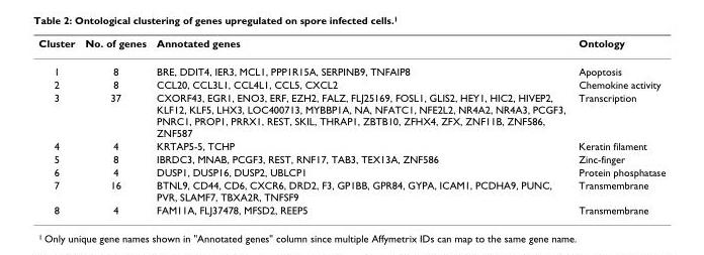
<table><thead><tr><td>Cluster</td><td>No. of genes</td><td>Annotated genes</td><td>Ontology</td></tr></thead><tbody><tr><td>1</td><td>8</td><td>BRE, DDIT4, IER3, MCL1, PPP1R15A, SERPINB9, TNFAIP8</td><td>Apoptosis</td></tr><tr><td>2</td><td>8</td><td>CCL20, CCL3L1, CCL4L1, CCL5, CXCL2</td><td>Chemokine activity</td></tr><tr><td>3</td><td>37</td><td>CXORF43, EGR1, ENO3, ERF, EZH2, FALZ, FLJ25169, FOSL1, GLIS2, HEY1, HIC2, HIVEP2, KLF12, KLF5, LHX3, LOC400713, MYBBP1A, NA, NFATC1, NFE2L2, NR4A2, NR4A3, PCGF3, PNRC1, PROP1, PRRX1, REST, SKIL, THRAP1, ZBTB10, ZFHX4, ZFX, ZNF11B, ZNF586, ZNF587</td><td>Transcription</td></tr><tr><td>4</td><td>4</td><td>KRTAP5-5, TCHP</td><td>Keratin filament</td></tr><tr><td>5</td><td>8</td><td>IBRDC3, MNAB, PCGF3, REST, RNF17, TAB3, TEX13A, ZNF586</td><td>Zinc-finger</td></tr><tr><td>6</td><td>4</td><td>DUSP1, DUSP16, DUSP2, UBLCP1</td><td>Protein phosphatase</td></tr><tr><td>7</td><td>16</td><td>BTNL9, CD44, CD6, CXCR6, DRD2, F3, GP1BB, GPR84, GYPA, ICAM1, PCDHA9, PUNC, PVR, SLAMF7, TBXA2R, TNFSF9</td><td>Transmembrane</td></tr><tr><td>8</td><td>4</td><td>FAM11A, FLJ37478, MFSD2, REEP5</td><td>Transmembrane</td></tr></tbody></table>